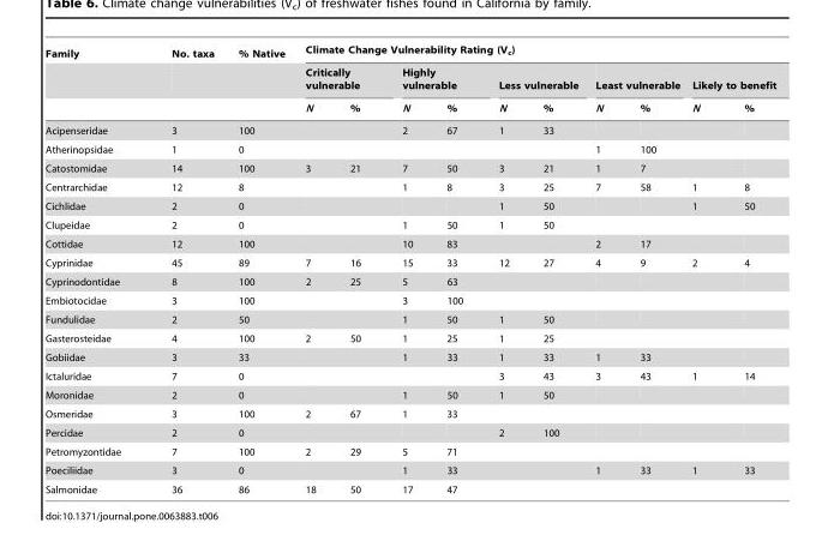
<table><thead><tr><td rowspan="3">Family</td><td rowspan="3">No. taxa</td><td rowspan="3">% Native</td><td colspan="10">Climate Change Vulnerability Rating (V<sub>c</sub>)</td></tr><tr><td colspan="2">Critically vulnerable</td><td colspan="2">Highly vulnerable</td><td colspan="2">Less vulnerable</td><td colspan="2">Least vulnerable</td><td colspan="2">Likely to benefit</td></tr><tr><td>N</td><td>%</td><td>N</td><td>%</td><td>N</td><td>%</td><td>N</td><td>%</td><td>N</td><td>%</td></tr></thead><tbody><tr><td>Acipenseridae</td><td>3</td><td>100</td><td></td><td></td><td>2</td><td>67</td><td>1</td><td>33</td><td></td><td></td><td></td><td></td></tr><tr><td>Atherinopsidae</td><td>1</td><td>0</td><td></td><td></td><td></td><td></td><td></td><td></td><td>1</td><td>100</td><td></td><td></td></tr><tr><td>Catostomidae</td><td>14</td><td>100</td><td>3</td><td>21</td><td>7</td><td>50</td><td>3</td><td>21</td><td>1</td><td>7</td><td></td><td></td></tr><tr><td>Centrarchidae</td><td>12</td><td>8</td><td></td><td></td><td>1</td><td>8</td><td>3</td><td>25</td><td>7</td><td>58</td><td>1</td><td>8</td></tr><tr><td>Cichlidae</td><td>2</td><td>0</td><td></td><td></td><td></td><td></td><td>1</td><td>50</td><td></td><td></td><td>1</td><td>50</td></tr><tr><td>Clupeidae</td><td>2</td><td>0</td><td></td><td></td><td>1</td><td>50</td><td>1</td><td>50</td><td></td><td></td><td></td><td></td></tr><tr><td>Cottidae</td><td>12</td><td>100</td><td></td><td></td><td>10</td><td>83</td><td></td><td></td><td>2</td><td>17</td><td></td><td></td></tr><tr><td>Cyprinidae</td><td>45</td><td>89</td><td>7</td><td>16</td><td>15</td><td>33</td><td>12</td><td>27</td><td>4</td><td>9</td><td>2</td><td>4</td></tr><tr><td>Cyprinodontidae</td><td>8</td><td>100</td><td>2</td><td>25</td><td>5</td><td>63</td><td></td><td></td><td></td><td></td><td></td><td></td></tr><tr><td>Embiotocidae</td><td>3</td><td>100</td><td></td><td></td><td>3</td><td>100</td><td></td><td></td><td></td><td></td><td></td><td></td></tr><tr><td>Fundulidae</td><td>2</td><td>50</td><td></td><td></td><td>1</td><td>50</td><td>1</td><td>50</td><td></td><td></td><td></td><td></td></tr><tr><td>Gasterosteidae</td><td>4</td><td>100</td><td>2</td><td>50</td><td>1</td><td>25</td><td>1</td><td>25</td><td></td><td></td><td></td><td></td></tr><tr><td>Gobiidae</td><td>3</td><td>33</td><td></td><td></td><td>1</td><td>33</td><td>1</td><td>33</td><td>1</td><td>33</td><td></td><td></td></tr><tr><td>Ictaluridae</td><td>7</td><td>0</td><td></td><td></td><td></td><td></td><td>3</td><td>43</td><td>3</td><td>43</td><td>1</td><td>14</td></tr><tr><td>Moronidae</td><td>2</td><td>0</td><td></td><td></td><td>1</td><td>50</td><td>1</td><td>50</td><td></td><td></td><td></td><td></td></tr><tr><td>Osmeridae</td><td>3</td><td>100</td><td>2</td><td>67</td><td>1</td><td>33</td><td></td><td></td><td></td><td></td><td></td><td></td></tr><tr><td>Percidae</td><td>2</td><td>0</td><td></td><td></td><td></td><td></td><td>2</td><td>100</td><td></td><td></td><td></td><td></td></tr><tr><td>Petromyzontidae</td><td>7</td><td>100</td><td>2</td><td>29</td><td>5</td><td>71</td><td></td><td></td><td></td><td></td><td></td><td></td></tr><tr><td>Poeciliidae</td><td>3</td><td>0</td><td></td><td></td><td>1</td><td>33</td><td></td><td></td><td>1</td><td>33</td><td>1</td><td>33</td></tr><tr><td>Salmonidae</td><td>36</td><td>86</td><td>18</td><td>50</td><td>17</td><td>47</td><td></td><td></td><td></td><td></td><td></td><td></td></tr></tbody></table>